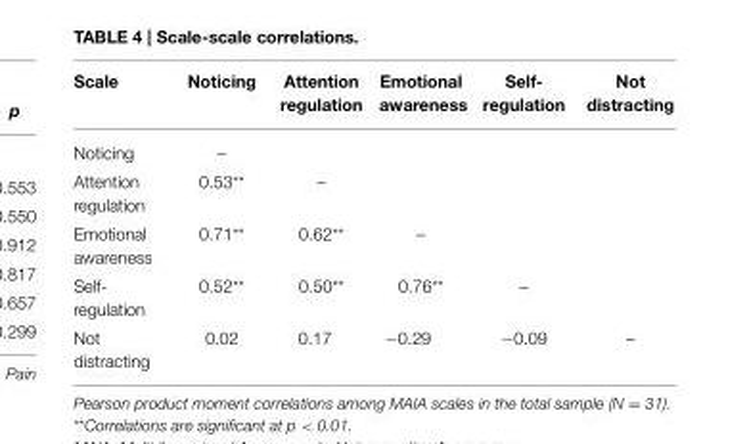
<table><thead><tr><td>Scale</td><td>Noticing</td><td>Attention regulation</td><td>Emotional awareness</td><td>Self- regulation</td><td>Not distracting</td></tr></thead><tbody><tr><td>Noticing</td><td>–</td><td></td><td></td><td></td><td></td></tr><tr><td>Attention regulation</td><td>0.53**</td><td>–</td><td></td><td></td><td></td></tr><tr><td>Emotional awareness</td><td>0.71**</td><td>0.62**</td><td>–</td><td></td><td></td></tr><tr><td>Self- regulation</td><td>0.52**</td><td>0.50**</td><td>0.76**</td><td>–</td><td></td></tr><tr><td>Not distracting</td><td>0.02</td><td>0.17</td><td>−0.29</td><td>−0.09</td><td>–</td></tr></tbody></table>